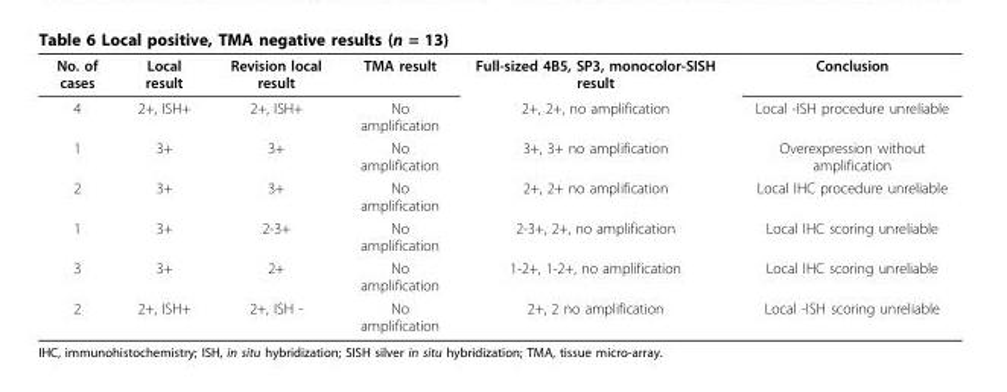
<table><tbody><tr><td>No. of cases</td><td>Local result</td><td>Revision local result</td><td>TMA result</td><td>Full-sized 4B5, SP3, monocolor-SISH result</td><td>Conclusion</td></tr><tr><td>4</td><td>2+, ISH+</td><td>2+, ISH+</td><td>No amplification</td><td>2+, 2+, no amplification</td><td>Local -ISH procedure unreliable</td></tr><tr><td>1</td><td>3+</td><td>3+</td><td>No amplification</td><td>3+, 3+ no amplification</td><td>Overexpression without amplification</td></tr><tr><td>2</td><td>3+</td><td>3+</td><td>No amplification</td><td>2+, 2+ no amplification</td><td>Local IHC procedure unreliable</td></tr><tr><td>1</td><td>3+</td><td>2-3+</td><td>No amplification</td><td>2-3+, 2+, no amplification</td><td>Local IHC scoring unreliable</td></tr><tr><td>3</td><td>3+</td><td>2+</td><td>No amplification</td><td>1-2+, 1-2+, no amplification</td><td>Local IHC scoring unreliable</td></tr><tr><td>2</td><td>2+, ISH+</td><td>2+, ISH -</td><td>No amplification</td><td>2+, 2 no amplification</td><td>Local -ISH scoring unreliable</td></tr></tbody></table>